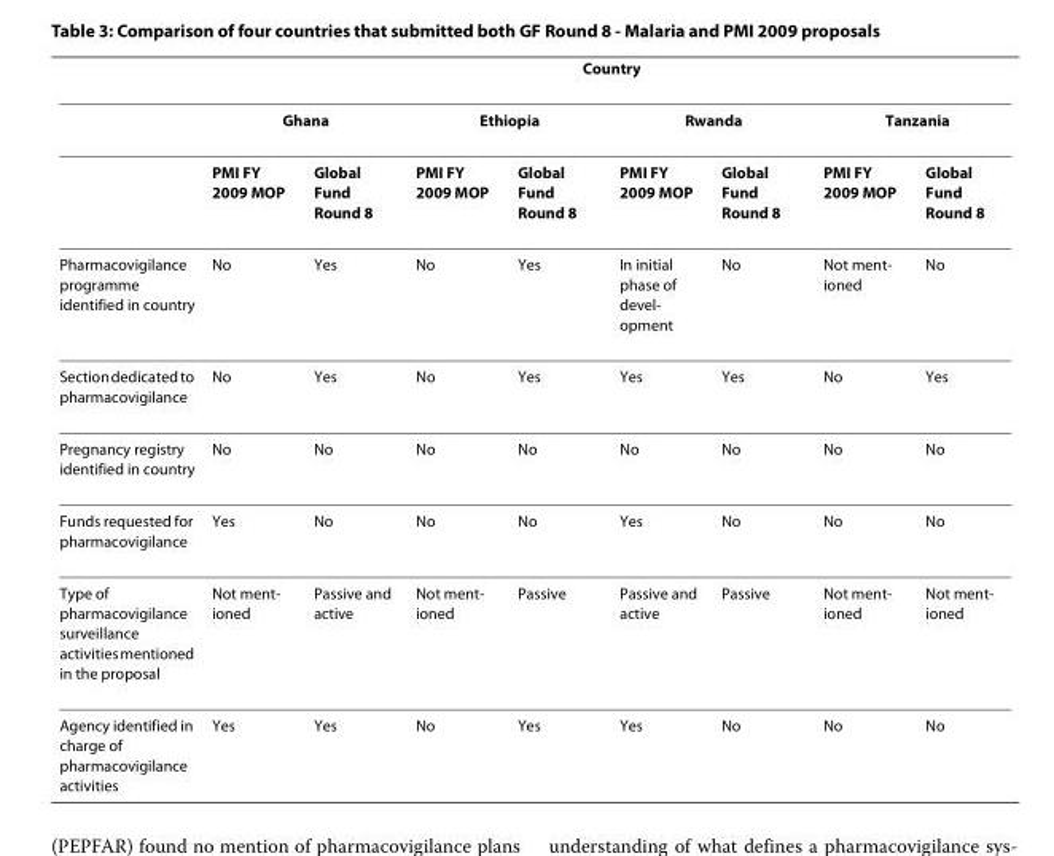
<table><thead><tr><td rowspan="3"></td><td colspan="8">Country</td></tr><tr><td colspan="2">Ghana</td><td colspan="2">Ethiopia</td><td colspan="2">Rwanda</td><td colspan="2">Tanzania</td></tr><tr><td>PMI FY 2009 MOP</td><td>Global Fund Round 8</td><td>PMI FY 2009 MOP</td><td>Global Fund Round 8</td><td>PMI FY 2009 MOP</td><td>Global Fund Round 8</td><td>PMI FY 2009 MOP</td><td>Global Fund Round 8</td></tr></thead><tbody><tr><td>Pharmacovigilance programme identified in country</td><td>No</td><td>Yes</td><td>No</td><td>Yes</td><td>In initial phase of devel- opment</td><td>No</td><td>Not ment- ioned</td><td>No</td></tr><tr><td>Section dedicated to pharmacovigilance</td><td>No</td><td>Yes</td><td>No</td><td>Yes</td><td>Yes</td><td>Yes</td><td>No</td><td>Yes</td></tr><tr><td>Pregnancy registry identified in country</td><td>No</td><td>No</td><td>No</td><td>No</td><td>No</td><td>No</td><td>No</td><td>No</td></tr><tr><td>Funds requested for pharmacovigilance</td><td>Yes</td><td>No</td><td>No</td><td>No</td><td>Yes</td><td>No</td><td>No</td><td>No</td></tr><tr><td>Type of pharmacovigilance surveillance activities mentioned in the proposal</td><td>Not ment- ioned</td><td>Passive and active</td><td>Not ment- ioned</td><td>Passive</td><td>Passive and active</td><td>Passive</td><td>Not ment- ioned</td><td>Not ment- ioned</td></tr><tr><td>Agency identified in charge of pharmacovigilance activities</td><td>Yes</td><td>Yes</td><td>No</td><td>Yes</td><td>Yes</td><td>No</td><td>No</td><td>No</td></tr></tbody></table>